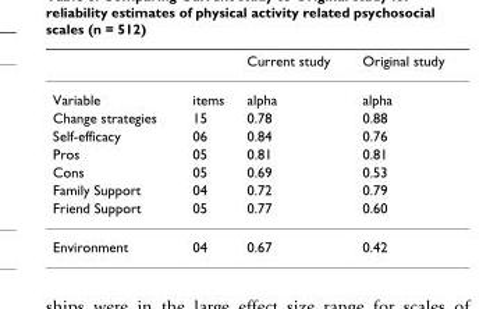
<table><thead><tr><td></td><td></td><td>Current study</td><td>Original study</td></tr></thead><tbody><tr><td>Variable</td><td>items</td><td>alpha</td><td>alpha</td></tr><tr><td>Change strategies</td><td>15</td><td>0.78</td><td>0.88</td></tr><tr><td>Self-efficacy</td><td>06</td><td>0.84</td><td>0.76</td></tr><tr><td>Pros</td><td>05</td><td>0.81</td><td>0.81</td></tr><tr><td>Cons</td><td>05</td><td>0.69</td><td>0.53</td></tr><tr><td>Family Support</td><td>04</td><td>0.72</td><td>0.79</td></tr><tr><td>Friend Support</td><td>05</td><td>0.77</td><td>0.60</td></tr><tr><td>Environment</td><td>04</td><td>0.67</td><td>0.42</td></tr></tbody></table>